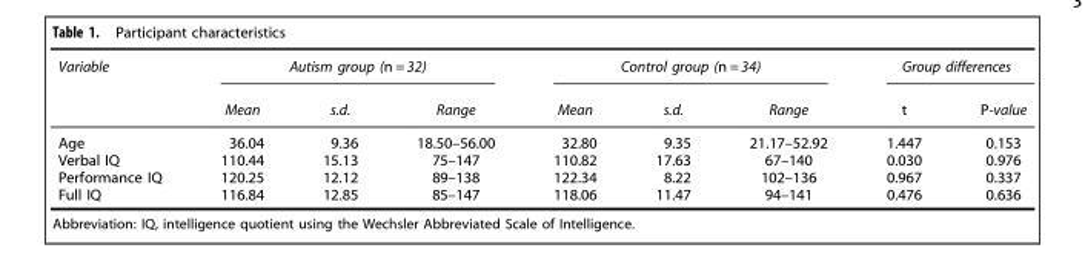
<table><thead><tr><td rowspan="2">Variable</td><td colspan="3">Autism group (n = 32)</td><td colspan="3">Control group (n = 34)</td><td colspan="2">Group differences</td></tr><tr><td>Mean</td><td>s.d.</td><td>Range</td><td>Mean</td><td>s.d.</td><td>Range</td><td>t</td><td>P-value</td></tr></thead><tbody><tr><td>Age</td><td>36.04</td><td>9.36</td><td>18.50–56.00</td><td>32.80</td><td>9.35</td><td>21.17–52.92</td><td>1.447</td><td>0.153</td></tr><tr><td>Verbal IQ</td><td>110.44</td><td>15.13</td><td>75–147</td><td>110.82</td><td>17.63</td><td>67–140</td><td>0.030</td><td>0.976</td></tr><tr><td>Performance IQ</td><td>120.25</td><td>12.12</td><td>89–138</td><td>122.34</td><td>8.22</td><td>102–136</td><td>0.967</td><td>0.337</td></tr><tr><td>Full IQ</td><td>116.84</td><td>12.85</td><td>85–147</td><td>118.06</td><td>11.47</td><td>94–141</td><td>0.476</td><td>0.636</td></tr></tbody></table>